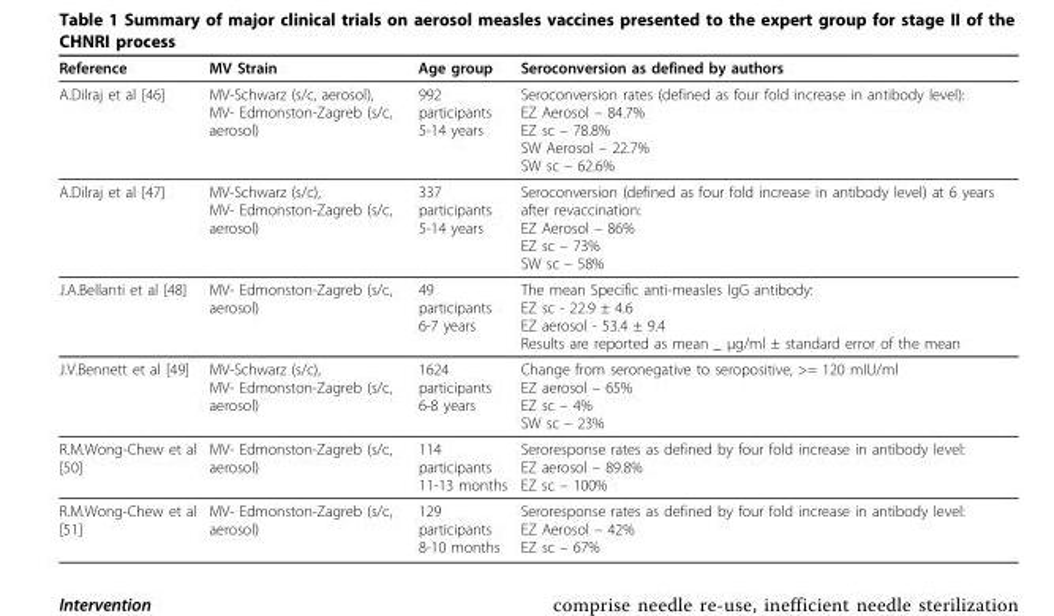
<table><thead><tr><td>Reference</td><td>MV Strain</td><td>Age group</td><td>Seroconversion as defined by authors</td></tr></thead><tbody><tr><td>A.Dilraj et al [46]</td><td>MV-Schwarz (s/c, aerosol), MV- Edmonston-Zagreb (s/c, aerosol)</td><td>992 participants 5-14 years</td><td>Seroconversion rates (defined as four fold increase in antibody level): EZ Aerosol – 84.7% EZ sc – 78.8% SW Aerosol – 22.7% SW sc – 62.6%</td></tr><tr><td>A.Dilraj et al [47]</td><td>MV-Schwarz (s/c), MV- Edmonston-Zagreb (s/c, aerosol)</td><td>337 participants 5-14 years</td><td>Seroconversion (defined as four fold increase in antibody level) at 6 years after revaccination: EZ Aerosol – 86% EZ sc – 73% SW sc – 58%</td></tr><tr><td>J.A.Bellanti et al [48]</td><td>MV- Edmonston-Zagreb (s/c, aerosol)</td><td>49 participants 6-7 years</td><td>The mean Specific anti-measles IgG antibody: EZ sc - 22.9 ± 4.6 EZ aerosol - 53.4 ± 9.4 Results are reported as mean _ µg/ml ± standard error of the mean</td></tr><tr><td>J.V.Bennett et al [49]</td><td>MV-Schwarz (s/c), MV- Edmonston-Zagreb (s/c, aerosol)</td><td>1624 participants 6-8 years</td><td>Change from seronegative to seropositive, &gt;= 120 mIU/ml EZ aerosol – 65% EZ sc – 4% SW sc – 23%</td></tr><tr><td>R.M.Wong-Chew et al [50]</td><td>MV- Edmonston-Zagreb (s/c, aerosol)</td><td>114 participants 11-13 months</td><td>Seroresponse rates as defined by four fold increase in antibody level: EZ aerosol – 89.8% EZ sc – 100%</td></tr><tr><td>R.M.Wong-Chew et al [51]</td><td>MV- Edmonston-Zagreb (s/c, aerosol)</td><td>129 participants 8-10 months</td><td>Seroresponse rates as defined by four fold increase in antibody level: EZ Aerosol – 42% EZ sc – 67%</td></tr></tbody></table>